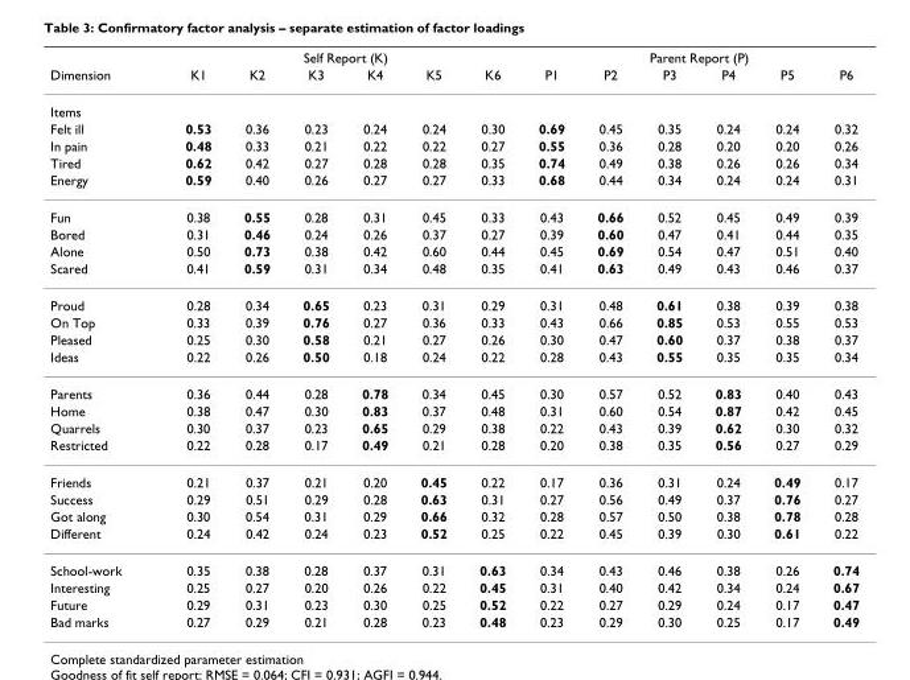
<table><thead><tr><td rowspan="2">Dimension</td><td colspan="6">Self Report (K)</td><td colspan="6">Parent Report (P)</td></tr><tr><td>K1</td><td>K2</td><td>K3</td><td>K4</td><td>K5</td><td>K6</td><td>P1</td><td>P2</td><td>P3</td><td>P4</td><td>P5</td><td>P6</td></tr></thead><tbody><tr><td colspan="13">Items</td></tr><tr><td>Felt ill</td><td>0.53</td><td>0.36</td><td>0.23</td><td>0.24</td><td>0.24</td><td>0.30</td><td>0.69</td><td>0.45</td><td>0.35</td><td>0.24</td><td>0.24</td><td>0.32</td></tr><tr><td>In pain</td><td>0.48</td><td>0.33</td><td>0.21</td><td>0.22</td><td>0.22</td><td>0.27</td><td>0.55</td><td>0.36</td><td>0.28</td><td>0.20</td><td>0.20</td><td>0.26</td></tr><tr><td>Tired</td><td>0.62</td><td>0.42</td><td>0.27</td><td>0.28</td><td>0.28</td><td>0.35</td><td>0.74</td><td>0.49</td><td>0.38</td><td>0.26</td><td>0.26</td><td>0.34</td></tr><tr><td>Energy</td><td>0.59</td><td>0.40</td><td>0.26</td><td>0.27</td><td>0.27</td><td>0.33</td><td>0.68</td><td>0.44</td><td>0.34</td><td>0.24</td><td>0.24</td><td>0.31</td></tr><tr><td>Fun</td><td>0.38</td><td>0.55</td><td>0.28</td><td>0.31</td><td>0.45</td><td>0.33</td><td>0.43</td><td>0.66</td><td>0.52</td><td>0.45</td><td>0.49</td><td>0.39</td></tr><tr><td>Bored</td><td>0.31</td><td>0.46</td><td>0.24</td><td>0.26</td><td>0.37</td><td>0.27</td><td>0.39</td><td>0.60</td><td>0.47</td><td>0.41</td><td>0.44</td><td>0.35</td></tr><tr><td>Alone</td><td>0.50</td><td>0.73</td><td>0.38</td><td>0.42</td><td>0.60</td><td>0.44</td><td>0.45</td><td>0.69</td><td>0.54</td><td>0.47</td><td>0.51</td><td>0.40</td></tr><tr><td>Scared</td><td>0.41</td><td>0.59</td><td>0.31</td><td>0.34</td><td>0.48</td><td>0.35</td><td>0.41</td><td>0.63</td><td>0.49</td><td>0.43</td><td>0.46</td><td>0.37</td></tr><tr><td>Proud</td><td>0.28</td><td>0.34</td><td>0.65</td><td>0.23</td><td>0.31</td><td>0.29</td><td>0.31</td><td>0.48</td><td>0.61</td><td>0.38</td><td>0.39</td><td>0.38</td></tr><tr><td>On Top</td><td>0.33</td><td>0.39</td><td>0.76</td><td>0.27</td><td>0.36</td><td>0.33</td><td>0.43</td><td>0.66</td><td>0.85</td><td>0.53</td><td>0.55</td><td>0.53</td></tr><tr><td>Pleased</td><td>0.25</td><td>0.30</td><td>0.58</td><td>0.21</td><td>0.27</td><td>0.26</td><td>0.30</td><td>0.47</td><td>0.60</td><td>0.37</td><td>0.38</td><td>0.37</td></tr><tr><td>Ideas</td><td>0.22</td><td>0.26</td><td>0.50</td><td>0.18</td><td>0.24</td><td>0.22</td><td>0.28</td><td>0.43</td><td>0.55</td><td>0.35</td><td>0.35</td><td>0.34</td></tr><tr><td>Parents</td><td>0.36</td><td>0.44</td><td>0.28</td><td>0.78</td><td>0.34</td><td>0.45</td><td>0.30</td><td>0.57</td><td>0.52</td><td>0.83</td><td>0.40</td><td>0.43</td></tr><tr><td>Home</td><td>0.38</td><td>0.47</td><td>0.30</td><td>0.83</td><td>0.37</td><td>0.48</td><td>0.31</td><td>0.60</td><td>0.54</td><td>0.87</td><td>0.42</td><td>0.45</td></tr><tr><td>Quarrels</td><td>0.30</td><td>0.37</td><td>0.23</td><td>0.65</td><td>0.29</td><td>0.38</td><td>0.22</td><td>0.43</td><td>0.39</td><td>0.62</td><td>0.30</td><td>0.32</td></tr><tr><td>Restricted</td><td>0.22</td><td>0.28</td><td>0.17</td><td>0.49</td><td>0.21</td><td>0.28</td><td>0.20</td><td>0.38</td><td>0.35</td><td>0.56</td><td>0.27</td><td>0.29</td></tr><tr><td>Friends</td><td>0.21</td><td>0.37</td><td>0.21</td><td>0.20</td><td>0.45</td><td>0.22</td><td>0.17</td><td>0.36</td><td>0.31</td><td>0.24</td><td>0.49</td><td>0.17</td></tr><tr><td>Success</td><td>0.29</td><td>0.51</td><td>0.29</td><td>0.28</td><td>0.63</td><td>0.31</td><td>0.27</td><td>0.56</td><td>0.49</td><td>0.37</td><td>0.76</td><td>0.27</td></tr><tr><td>Got along</td><td>0.30</td><td>0.54</td><td>0.31</td><td>0.29</td><td>0.66</td><td>0.32</td><td>0.28</td><td>0.57</td><td>0.50</td><td>0.38</td><td>0.78</td><td>0.28</td></tr><tr><td>Different</td><td>0.24</td><td>0.42</td><td>0.24</td><td>0.23</td><td>0.52</td><td>0.25</td><td>0.22</td><td>0.45</td><td>0.39</td><td>0.30</td><td>0.61</td><td>0.22</td></tr><tr><td>School-work</td><td>0.35</td><td>0.38</td><td>0.28</td><td>0.37</td><td>0.31</td><td>0.63</td><td>0.34</td><td>0.43</td><td>0.46</td><td>0.38</td><td>0.26</td><td>0.74</td></tr><tr><td>Interesting</td><td>0.25</td><td>0.27</td><td>0.20</td><td>0.26</td><td>0.22</td><td>0.45</td><td>0.31</td><td>0.40</td><td>0.42</td><td>0.34</td><td>0.24</td><td>0.67</td></tr><tr><td>Future</td><td>0.29</td><td>0.31</td><td>0.23</td><td>0.30</td><td>0.25</td><td>0.52</td><td>0.22</td><td>0.27</td><td>0.29</td><td>0.24</td><td>0.17</td><td>0.47</td></tr><tr><td>Bad marks</td><td>0.27</td><td>0.29</td><td>0.21</td><td>0.28</td><td>0.23</td><td>0.48</td><td>0.23</td><td>0.29</td><td>0.30</td><td>0.25</td><td>0.17</td><td>0.49</td></tr></tbody></table>